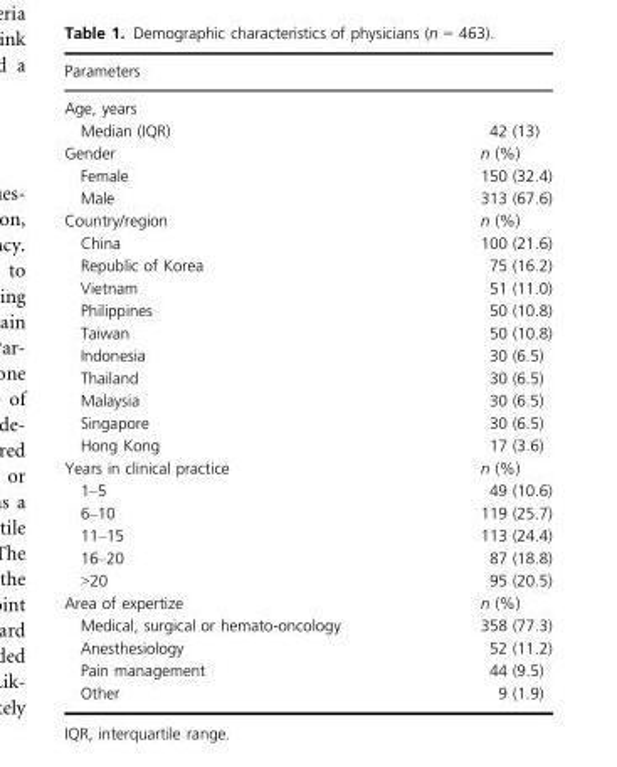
<table><thead><tr><td>Parameters</td><td></td></tr></thead><tbody><tr><td colspan="2">Age, years</td></tr><tr><td>Median (IQR)</td><td>42 (13)</td></tr><tr><td>Gender</td><td>n (%)</td></tr><tr><td>Female</td><td>150 (32.4)</td></tr><tr><td>Male</td><td>313 (67.6)</td></tr><tr><td>Country/region</td><td>n (%)</td></tr><tr><td>China</td><td>100 (21.6)</td></tr><tr><td>Republic of Korea</td><td>75 (16.2)</td></tr><tr><td>Vietnam</td><td>51 (11.0)</td></tr><tr><td>Philippines</td><td>50 (10.8)</td></tr><tr><td>Taiwan</td><td>50 (10.8)</td></tr><tr><td>Indonesia</td><td>30 (6.5)</td></tr><tr><td>Thailand</td><td>30 (6.5)</td></tr><tr><td>Malaysia</td><td>30 (6.5)</td></tr><tr><td>Singapore</td><td>30 (6.5)</td></tr><tr><td>Hong Kong</td><td>17 (3.6)</td></tr><tr><td>Years in clinical practice</td><td>n (%)</td></tr><tr><td>1–5</td><td>49 (10.6)</td></tr><tr><td>6–10</td><td>119 (25.7)</td></tr><tr><td>11–15</td><td>113 (24.4)</td></tr><tr><td>16–20</td><td>87 (18.8)</td></tr><tr><td>&gt;20</td><td>95 (20.5)</td></tr><tr><td>Area of expertize</td><td>n (%)</td></tr><tr><td>Medical, surgical or hemato-oncology</td><td>358 (77.3)</td></tr><tr><td>Anesthesiology</td><td>52 (11.2)</td></tr><tr><td>Pain management</td><td>44 (9.5)</td></tr><tr><td>Other</td><td>9 (1.9)</td></tr></tbody></table>